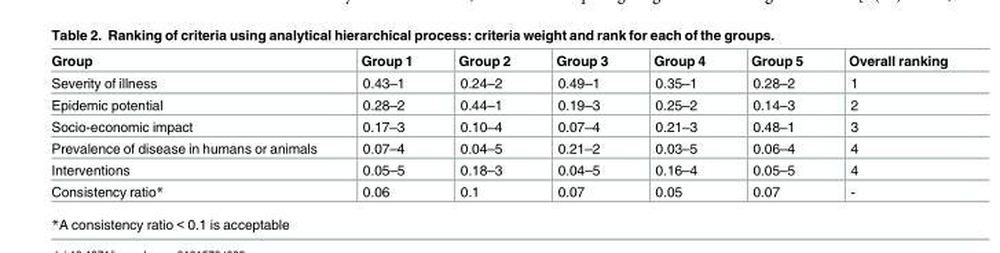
<table><thead><tr><td>Group</td><td>Group 1</td><td>Group 2</td><td>Group 3</td><td>Group 4</td><td>Group 5</td><td>Overall ranking</td></tr></thead><tbody><tr><td>Severity of illness</td><td>0.43–1</td><td>0.24–2</td><td>0.49–1</td><td>0.35–1</td><td>0.28–2</td><td>1</td></tr><tr><td>Epidemic potential</td><td>0.28–2</td><td>0.44–1</td><td>0.19–3</td><td>0.25–2</td><td>0.14–3</td><td>2</td></tr><tr><td>Socio-economic impact</td><td>0.17–3</td><td>0.10–4</td><td>0.07–4</td><td>0.21–3</td><td>0.48–1</td><td>3</td></tr><tr><td>Prevalence of disease in humans or animals</td><td>0.07–4</td><td>0.04–5</td><td>0.21–2</td><td>0.03–5</td><td>0.06–4</td><td>4</td></tr><tr><td>Interventions</td><td>0.05–5</td><td>0.18–3</td><td>0.04–5</td><td>0.16–4</td><td>0.05–5</td><td>4</td></tr><tr><td>Consistency ratio*</td><td>0.06</td><td>0.1</td><td>0.07</td><td>0.05</td><td>0.07</td><td>-</td></tr></tbody></table>